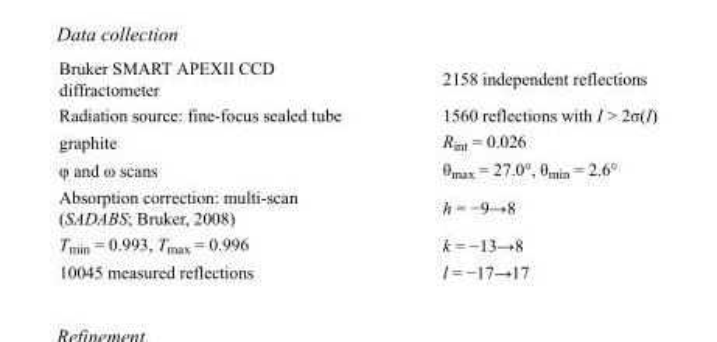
<table><tbody><tr><td>Bruker SMART APEXII CCD diffractometer</td><td>2158 independent reflections</td></tr><tr><td>Radiation source: fine-focus sealed tube</td><td>1560 reflections with I &gt; 2σ(I)</td></tr><tr><td>graphite</td><td>R<sub>int</sub> = 0.026</td></tr><tr><td>φ and ω scans</td><td>θ<sub>max</sub> = 27.0°, θ<sub>min</sub> = 2.6°</td></tr><tr><td>Absorption correction: multi-scan (SADABS; Bruker, 2008)</td><td>h = −9→8</td></tr><tr><td>T<sub>min</sub> = 0.993, T<sub>max</sub> = 0.996</td><td>k = −13→8</td></tr><tr><td>10045 measured reflections</td><td>l = −17→17</td></tr></tbody></table>